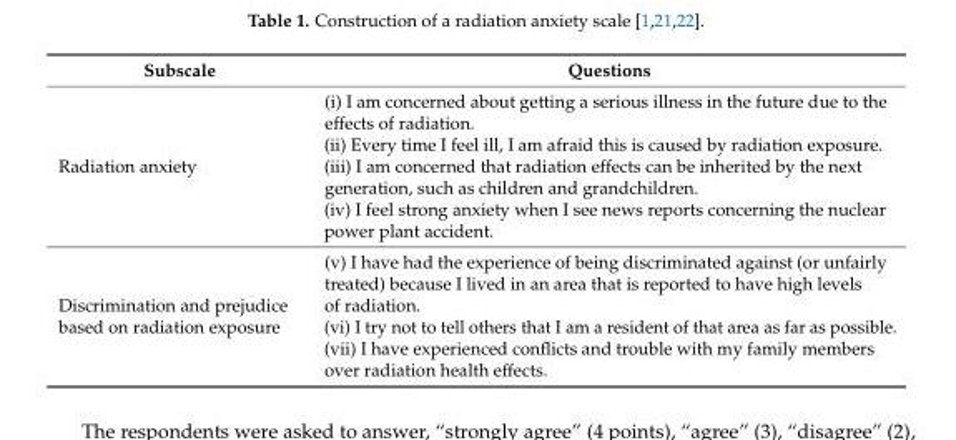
<table><thead><tr><td>Subscale</td><td>Questions</td></tr></thead><tbody><tr><td>Radiation anxiety</td><td>(i) I am concerned about getting a serious illness in the future due to the effects of radiation. (ii) Every time I feel ill, I am afraid this is caused by radiation exposure. (iii) I am concerned that radiation effects can be inherited by the next generation, such as children and grandchildren. (iv) I feel strong anxiety when I see news reports concerning the nuclear power plant accident.</td></tr><tr><td>Discrimination and prejudice based on radiation exposure</td><td>(v) I have had the experience of being discriminated against (or unfairly treated) because I lived in an area that is reported to have high levels of radiation. (vi) I try not to tell others that I am a resident of that area as far as possible. (vii) I have experienced conflicts and trouble with my family members over radiation health effects.</td></tr></tbody></table>